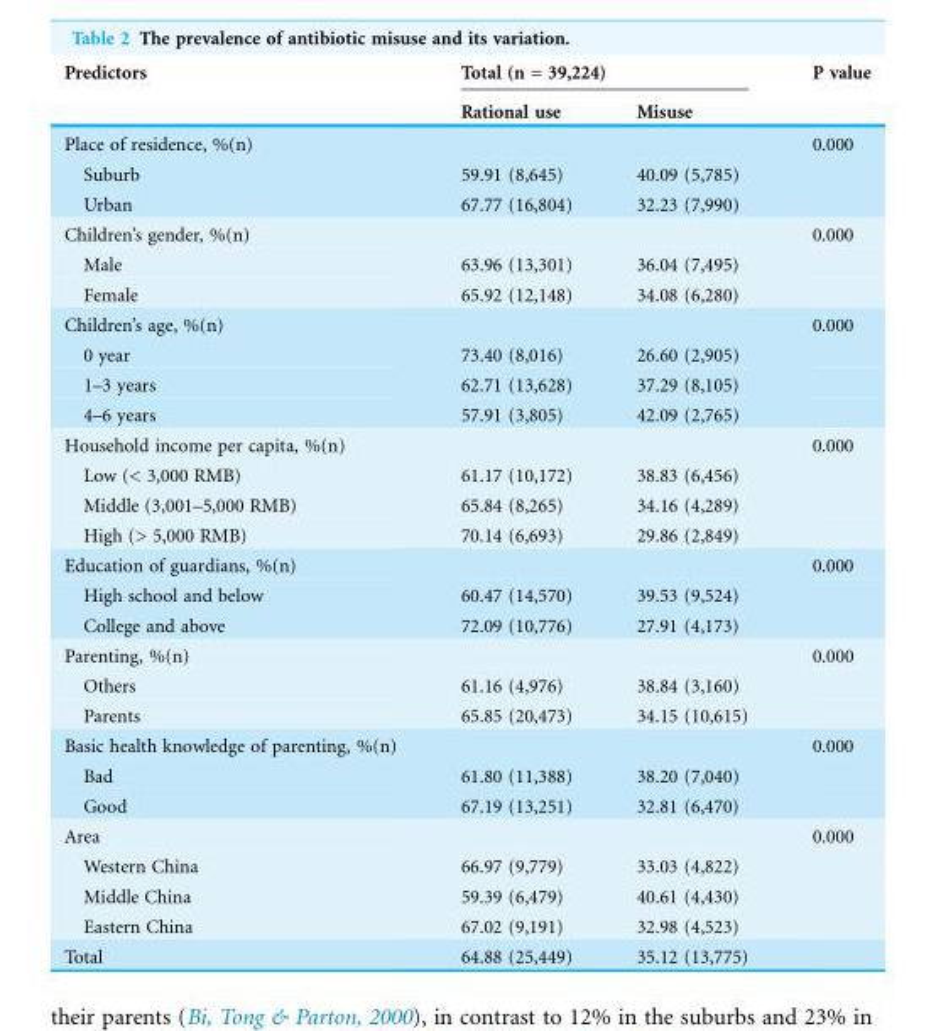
<table><thead><tr><td rowspan="2">Predictors</td><td colspan="2">Total (n = 39,224)</td><td rowspan="2">P value</td></tr><tr><td>Rational use</td><td>Misuse</td></tr></thead><tbody><tr><td>Place of residence, %(n)</td><td></td><td></td><td>0.000</td></tr><tr><td>Suburb</td><td>59.91 (8,645)</td><td>40.09 (5,785)</td><td></td></tr><tr><td>Urban</td><td>67.77 (16,804)</td><td>32.23 (7,990)</td><td></td></tr><tr><td>Children’s gender, %(n)</td><td></td><td></td><td>0.000</td></tr><tr><td>Male</td><td>63.96 (13,301)</td><td>36.04 (7,495)</td><td></td></tr><tr><td>Female</td><td>65.92 (12,148)</td><td>34.08 (6,280)</td><td></td></tr><tr><td>Children’s age, %(n)</td><td></td><td></td><td>0.000</td></tr><tr><td>0 year</td><td>73.40 (8,016)</td><td>26.60 (2,905)</td><td></td></tr><tr><td>1–3 years</td><td>62.71 (13,628)</td><td>37.29 (8,105)</td><td></td></tr><tr><td>4–6 years</td><td>57.91 (3,805)</td><td>42.09 (2,765)</td><td></td></tr><tr><td>Household income per capita, %(n)</td><td></td><td></td><td>0.000</td></tr><tr><td>Low (&lt; 3,000 RMB)</td><td>61.17 (10,172)</td><td>38.83 (6,456)</td><td></td></tr><tr><td>Middle (3,001–5,000 RMB)</td><td>65.84 (8,265)</td><td>34.16 (4,289)</td><td></td></tr><tr><td>High (&gt; 5,000 RMB)</td><td>70.14 (6,693)</td><td>29.86 (2,849)</td><td></td></tr><tr><td>Education of guardians, %(n)</td><td></td><td></td><td>0.000</td></tr><tr><td>High school and below</td><td>60.47 (14,570)</td><td>39.53 (9,524)</td><td></td></tr><tr><td>College and above</td><td>72.09 (10,776)</td><td>27.91 (4,173)</td><td></td></tr><tr><td>Parenting, %(n)</td><td></td><td></td><td>0.000</td></tr><tr><td>Others</td><td>61.16 (4,976)</td><td>38.84 (3,160)</td><td></td></tr><tr><td>Parents</td><td>65.85 (20,473)</td><td>34.15 (10,615)</td><td></td></tr><tr><td>Basic health knowledge of parenting, %(n)</td><td></td><td></td><td>0.000</td></tr><tr><td>Bad</td><td>61.80 (11,388)</td><td>38.20 (7,040)</td><td></td></tr><tr><td>Good</td><td>67.19 (13,251)</td><td>32.81 (6,470)</td><td></td></tr><tr><td>Area</td><td></td><td></td><td>0.000</td></tr><tr><td>Western China</td><td>66.97 (9,779)</td><td>33.03 (4,822)</td><td></td></tr><tr><td>Middle China</td><td>59.39 (6,479)</td><td>40.61 (4,430)</td><td></td></tr><tr><td>Eastern China</td><td>67.02 (9,191)</td><td>32.98 (4,523)</td><td></td></tr><tr><td>Total</td><td>64.88 (25,449)</td><td>35.12 (13,775)</td><td></td></tr></tbody></table>